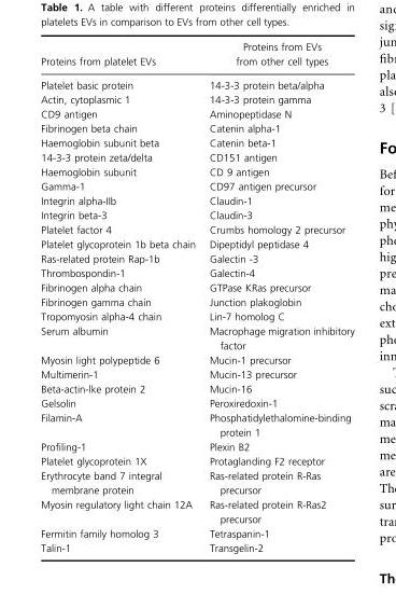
<table><thead><tr><td>Proteins from platelet EVs</td><td>Proteins from EVs from other cell types</td></tr></thead><tbody><tr><td>Platelet basic protein</td><td>14-3-3 protein beta/alpha</td></tr><tr><td>Actin, cytoplasmic 1</td><td>14-3-3 protein gamma</td></tr><tr><td>CD9 antigen</td><td>Aminopeptidase N</td></tr><tr><td>Fibrinogen beta chain</td><td>Catenin alpha-1</td></tr><tr><td>Haemoglobin subunit beta</td><td>Catenin beta-1</td></tr><tr><td>14-3-3 protein zeta/delta</td><td>CD151 antigen</td></tr><tr><td>Haemoglobin subunit</td><td>CD 9 antigen</td></tr><tr><td>Gamma-1</td><td>CD97 antigen precursor</td></tr><tr><td>Integrin alpha-IIb</td><td>Claudin-1</td></tr><tr><td>Integrin beta-3</td><td>Claudin-3</td></tr><tr><td>Platelet factor 4</td><td>Crumbs homology 2 precursor</td></tr><tr><td>Platelet glycoprotein 1b beta chain</td><td>Dipeptidyl peptidase 4</td></tr><tr><td>Ras-related protein Rap-1b</td><td>Galectin -3</td></tr><tr><td>Thrombospondin-1</td><td>Galectin-4</td></tr><tr><td>Fibrinogen alpha chain</td><td>GTPase KRas precursor</td></tr><tr><td>Fibrinogen gamma chain</td><td>Junction plakoglobin</td></tr><tr><td>Tropomyosin alpha-4 chain</td><td>Lin-7 homolog C</td></tr><tr><td>Serum albumin</td><td>Macrophage migration inhibitory factor</td></tr><tr><td>Myosin light polypeptide 6</td><td>Mucin-1 precursor</td></tr><tr><td>Multimerin-1</td><td>Mucin-13 precursor</td></tr><tr><td>Beta-actin-lke protein 2</td><td>Mucin-16</td></tr><tr><td>Gelsolin</td><td>Peroxiredoxin-1</td></tr><tr><td>Filamin-A</td><td>Phosphatidylethalomine-binding protein 1</td></tr><tr><td>Profiling-1</td><td>Plexin B2</td></tr><tr><td>Platelet glycoprotein 1X</td><td>Protaglanding F2 receptor</td></tr><tr><td>Erythrocyte band 7 integral membrane protein</td><td>Ras-related protein R-Ras precursor</td></tr><tr><td>Myosin regulatory light chain 12A</td><td>Ras-related protein R-Ras2 precursor</td></tr><tr><td>Fermitin family homolog 3</td><td>Tetraspanin-1</td></tr><tr><td>Talin-1</td><td>Transgelin-2</td></tr></tbody></table>